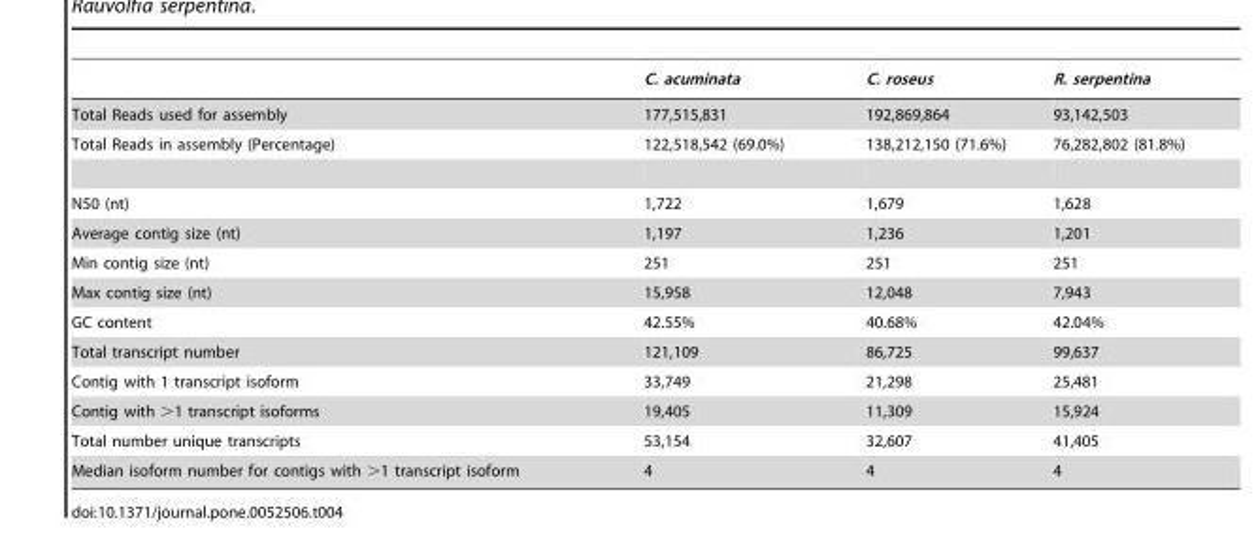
<table><thead><tr><td></td><td>C. acuminata</td><td>C. roseus</td><td>R. serpentina</td></tr></thead><tbody><tr><td>Total Reads used for assembly</td><td>177,515,831</td><td>192,869,864</td><td>93,142,503</td></tr><tr><td>Total Reads in assembly (Percentage)</td><td>122,518,542 (69.0%)</td><td>138,212,150 (71.6%)</td><td>76,282,802 (81.8%)</td></tr><tr><td>N50 (nt)</td><td>1,722</td><td>1,679</td><td>1,628</td></tr><tr><td>Average contig size (nt)</td><td>1,197</td><td>1,236</td><td>1,201</td></tr><tr><td>Min contig size (nt)</td><td>251</td><td>251</td><td>251</td></tr><tr><td>Max contig size (nt)</td><td>15,958</td><td>12,048</td><td>7,943</td></tr><tr><td>GC content</td><td>42.55%</td><td>40.68%</td><td>42.04%</td></tr><tr><td>Total transcript number</td><td>121,109</td><td>86,725</td><td>99,637</td></tr><tr><td>Contig with 1 transcript isoform</td><td>33,749</td><td>21,298</td><td>25,481</td></tr><tr><td>Contig with &gt;1 transcript isoforms</td><td>19,405</td><td>11,309</td><td>15,924</td></tr><tr><td>Total number unique transcripts</td><td>53,154</td><td>32,607</td><td>41,405</td></tr><tr><td>Median isoform number for contigs with &gt;1 transcript isoform</td><td>4</td><td>4</td><td>4</td></tr></tbody></table>